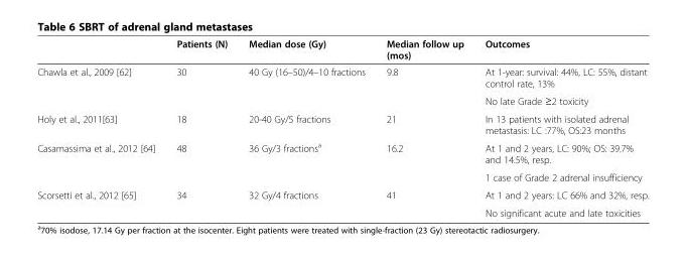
<table><thead><tr><td></td><td>Patients (N)</td><td>Median dose (Gy)</td><td>Median follow up (mos)</td><td>Outcomes</td></tr></thead><tbody><tr><td rowspan="2">Chawla et al., 2009 [62]</td><td>30</td><td>40 Gy (16–50)/4–10 fractions</td><td>9.8</td><td>At 1-year: survival: 44%, LC: 55%, distant control rate, 13%</td></tr><tr><td></td><td></td><td></td><td>No late Grade ≥2 toxicity</td></tr><tr><td>Holy et al., 2011[63]</td><td>18</td><td>20-40 Gy/5 fractions</td><td>21</td><td>In 13 patients with isolated adrenal metastasis: LC :77%, OS:23 months</td></tr><tr><td rowspan="2">Casamassima et al., 2012 [64]</td><td>48</td><td>36 Gy/3 fractions<sup>a</sup></td><td>16.2</td><td>At 1 and 2 years, LC: 90%; OS: 39.7% and 14.5%, resp.</td></tr><tr><td></td><td></td><td></td><td>1 case of Grade 2 adrenal insufficiency</td></tr><tr><td rowspan="2">Scorsetti et al., 2012 [65]</td><td>34</td><td>32 Gy/4 fractions</td><td>41</td><td>At 1 and 2 years: LC 66% and 32%, resp.</td></tr><tr><td></td><td></td><td></td><td>No significant acute and late toxicities</td></tr></tbody></table>